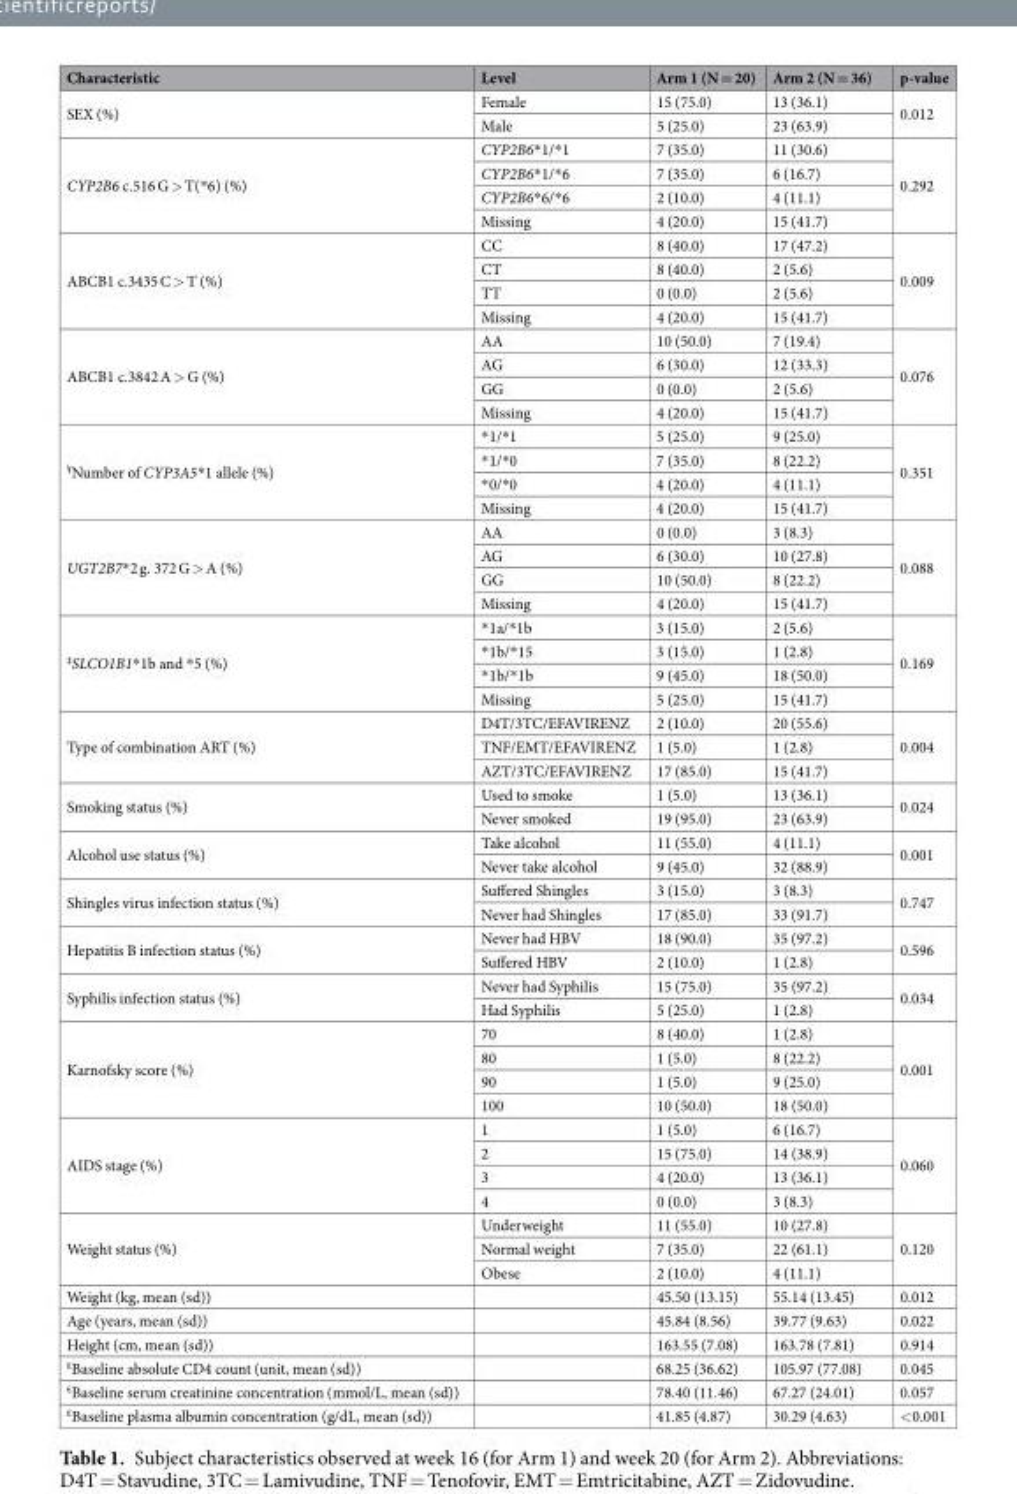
<table><thead><tr><td>Characteristic</td><td>Level</td><td>Arm 1 (N = 20)</td><td>Arm 2 (N = 36)</td><td>p-value</td></tr></thead><tbody><tr><td rowspan="2">SEX (%)</td><td>Female</td><td>15 (75.0)</td><td>13 (36.1)</td><td rowspan="2">0.012</td></tr><tr><td>Male</td><td>5 (25.0)</td><td>23 (63.9)</td></tr><tr><td rowspan="4">CYP2B6 c.516 G &gt; T(*6) (%)</td><td>CYP2B6*1/*1</td><td>7 (35.0)</td><td>11 (30.6)</td><td rowspan="4">0.292</td></tr><tr><td>CYP2B6*1/*6</td><td>7 (35.0)</td><td>6 (16.7)</td></tr><tr><td>CYP2B6*6/*6</td><td>2 (10.0)</td><td>4 (11.1)</td></tr><tr><td>Missing</td><td>4 (20.0)</td><td>15 (41.7)</td></tr><tr><td rowspan="4">ABCB1 c.3435 C &gt; T (%)</td><td>CC</td><td>8 (40.0)</td><td>17 (47.2)</td><td rowspan="4">0.009</td></tr><tr><td>CT</td><td>8 (40.0)</td><td>2 (5.6)</td></tr><tr><td>TT</td><td>0 (0.0)</td><td>2 (5.6)</td></tr><tr><td>Missing</td><td>4 (20.0)</td><td>15 (41.7)</td></tr><tr><td rowspan="4">ABCB1 c.3842 A &gt; G (%)</td><td>AA</td><td>10 (50.0)</td><td>7 (19.4)</td><td rowspan="4">0.076</td></tr><tr><td>AG</td><td>6 (30.0)</td><td>12 (33.3)</td></tr><tr><td>GG</td><td>0 (0.0)</td><td>2 (5.6)</td></tr><tr><td>Missing</td><td>4 (20.0)</td><td>15 (41.7)</td></tr><tr><td rowspan="4"><sup>¥</sup>Number of CYP3A5*1 allele (%)</td><td>*1/*1</td><td>5 (25.0)</td><td>9 (25.0)</td><td rowspan="4">0.351</td></tr><tr><td>*1/*0</td><td>7 (35.0)</td><td>8 (22.2)</td></tr><tr><td>*0/*0</td><td>4 (20.0)</td><td>4 (11.1)</td></tr><tr><td>Missing</td><td>4 (20.0)</td><td>15 (41.7)</td></tr><tr><td rowspan="4">UGT2B7*2 g. 372 G &gt; A (%)</td><td>AA</td><td>0 (0.0)</td><td>3 (8.3)</td><td rowspan="4">0.088</td></tr><tr><td>AG</td><td>6 (30.0)</td><td>10 (27.8)</td></tr><tr><td>GG</td><td>10 (50.0)</td><td>8 (22.2)</td></tr><tr><td>Missing</td><td>4 (20.0)</td><td>15 (41.7)</td></tr><tr><td rowspan="4"><sup>‡</sup>SLCO1B1*1b and *5 (%)</td><td>*1a/*1b</td><td>3 (15.0)</td><td>2 (5.6)</td><td rowspan="4">0.169</td></tr><tr><td>*1b/*15</td><td>3 (15.0)</td><td>1 (2.8)</td></tr><tr><td>*1b/*1b</td><td>9 (45.0)</td><td>18 (50.0)</td></tr><tr><td>Missing</td><td>5 (25.0)</td><td>15 (41.7)</td></tr><tr><td rowspan="3">Type of combination ART (%)</td><td>D4T/3TC/EFAVIRENZ</td><td>2 (10.0)</td><td>20 (55.6)</td><td rowspan="3">0.004</td></tr><tr><td>TNF/EMT/EFAVIRENZ</td><td>1 (5.0)</td><td>1 (2.8)</td></tr><tr><td>AZT/3TC/EFAVIRENZ</td><td>17 (85.0)</td><td>15 (41.7)</td></tr><tr><td rowspan="2">Smoking status (%)</td><td>Used to smoke</td><td>1 (5.0)</td><td>13 (36.1)</td><td rowspan="2">0.024</td></tr><tr><td>Never smoked</td><td>19 (95.0)</td><td>23 (63.9)</td></tr><tr><td rowspan="2">Alcohol use status (%)</td><td>Take alcohol</td><td>11 (55.0)</td><td>4 (11.1)</td><td rowspan="2">0.001</td></tr><tr><td>Never take alcohol</td><td>9 (45.0)</td><td>32 (88.9)</td></tr><tr><td rowspan="2">Shingles virus infection status (%)</td><td>Suffered Shingles</td><td>3 (15.0)</td><td>3 (8.3)</td><td rowspan="2">0.747</td></tr><tr><td>Never had Shingles</td><td>17 (85.0)</td><td>33 (91.7)</td></tr><tr><td rowspan="2">Hepatitis B infection status (%)</td><td>Never had HBV</td><td>18 (90.0)</td><td>35 (97.2)</td><td rowspan="2">0.596</td></tr><tr><td>Suffered HBV</td><td>2 (10.0)</td><td>1 (2.8)</td></tr><tr><td rowspan="2">Syphilis infection status (%)</td><td>Never had Syphilis</td><td>15 (75.0)</td><td>35 (97.2)</td><td rowspan="2">0.034</td></tr><tr><td>Had Syphilis</td><td>5 (25.0)</td><td>1 (2.8)</td></tr><tr><td rowspan="4">Karnofsky score (%)</td><td>70</td><td>8 (40.0)</td><td>1 (2.8)</td><td rowspan="4">0.001</td></tr><tr><td>80</td><td>1 (5.0)</td><td>8 (22.2)</td></tr><tr><td>90</td><td>1 (5.0)</td><td>9 (25.0)</td></tr><tr><td>100</td><td>10 (50.0)</td><td>18 (50.0)</td></tr><tr><td rowspan="4">AIDS stage (%)</td><td>1</td><td>1 (5.0)</td><td>6 (16.7)</td><td rowspan="4">0.060</td></tr><tr><td>2</td><td>15 (75.0)</td><td>14 (38.9)</td></tr><tr><td>3</td><td>4 (20.0)</td><td>13 (36.1)</td></tr><tr><td>4</td><td>0 (0.0)</td><td>3 (8.3)</td></tr><tr><td rowspan="3">Weight status (%)</td><td>Underweight</td><td>11 (55.0)</td><td>10 (27.8)</td><td rowspan="3">0.120</td></tr><tr><td>Normal weight</td><td>7 (35.0)</td><td>22 (61.1)</td></tr><tr><td>Obese</td><td>2 (10.0)</td><td>4 (11.1)</td></tr><tr><td>Weight (kg, mean (sd))</td><td></td><td>45.50 (13.15)</td><td>55.14 (13.45)</td><td>0.012</td></tr><tr><td>Age (years, mean (sd))</td><td></td><td>45.84 (8.56)</td><td>39.77 (9.63)</td><td>0.022</td></tr><tr><td>Height (cm, mean (sd))</td><td></td><td>163.55 (7.08)</td><td>163.78 (7.81)</td><td>0.914</td></tr><tr><td><sup>₤</sup>Baseline absolute CD4 count (unit, mean (sd))</td><td></td><td>68.25 (36.62)</td><td>105.97 (77.08)</td><td>0.045</td></tr><tr><td><sup>₤</sup>Baseline serum creatinine concentration (mmol/L, mean (sd))</td><td></td><td>78.40 (11.46)</td><td>67.27 (24.01)</td><td>0.057</td></tr><tr><td><sup>₤</sup>Baseline plasma albumin concentration (g/dL, mean (sd))</td><td></td><td>41.85 (4.87)</td><td>30.29 (4.63)</td><td>&lt;0.001</td></tr></tbody></table>